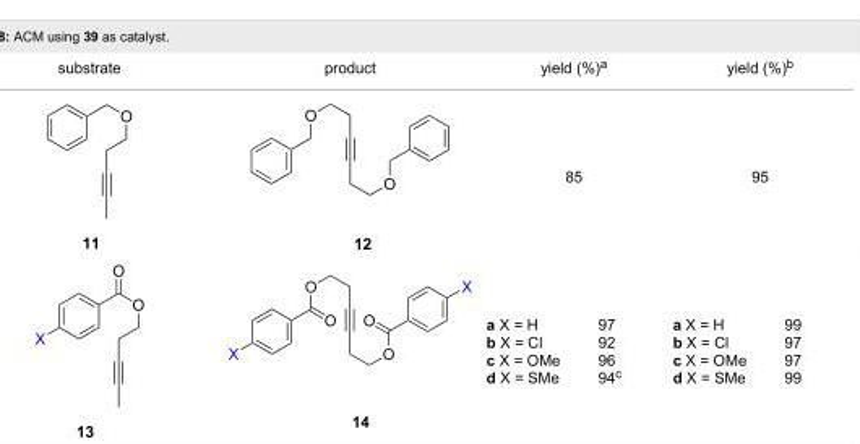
<table><tbody><tr><td rowspan="3">substrate</td><td>product</td><td colspan="2">yield (%)<sup>a</sup></td><td colspan="2">yield (%)<sup>b</sup></td></tr><tr><td></td><td colspan="2">85</td><td colspan="2">95</td></tr><tr><td></td><td>a X = H b X = Cl c X = OMe d X = SMe</td><td>97 92 96 94<sup>c</sup></td><td>a X = H b X = Cl c X = OMe d X = SMe</td><td>99 97 97 99</td></tr></tbody></table>